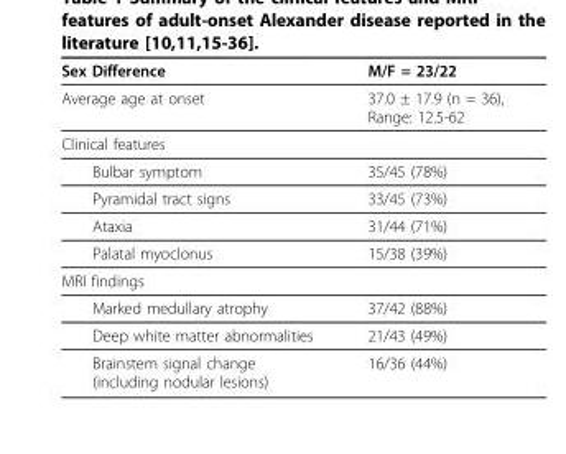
<table><thead><tr><td>Sex Difference</td><td>M/F = 23/22</td></tr></thead><tbody><tr><td>Average age at onset</td><td>37.0 ± 17.9 (n = 36), Range: 12.5-62</td></tr><tr><td colspan="2">Clinical features</td></tr><tr><td>Bulbar symptom</td><td>35/45 (78%)</td></tr><tr><td>Pyramidal tract signs</td><td>33/45 (73%)</td></tr><tr><td>Ataxia</td><td>31/44 (71%)</td></tr><tr><td>Palatal myoclonus</td><td>15/38 (39%)</td></tr><tr><td colspan="2">MRI findings</td></tr><tr><td>Marked medullary atrophy</td><td>37/42 (88%)</td></tr><tr><td>Deep white matter abnormalities</td><td>21/43 (49%)</td></tr><tr><td>Brainstem signal change (including nodular lesions)</td><td>16/36 (44%)</td></tr></tbody></table>